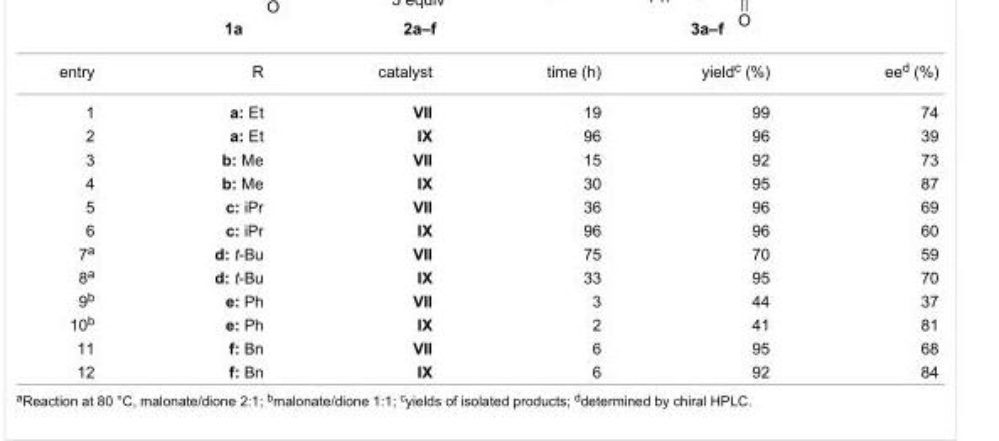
<table><tbody><tr><td>entry</td><td>R</td><td>catalyst</td><td>time (h)</td><td>yield<sup>c</sup> (%)</td><td>ee<sup>d</sup> (%)</td></tr><tr><td>1</td><td>a: Et</td><td>VII</td><td>19</td><td>99</td><td>74</td></tr><tr><td>2</td><td>a: Et</td><td>IX</td><td>96</td><td>96</td><td>39</td></tr><tr><td>3</td><td>b: Me</td><td>VII</td><td>15</td><td>92</td><td>73</td></tr><tr><td>4</td><td>b: Me</td><td>IX</td><td>30</td><td>95</td><td>87</td></tr><tr><td>5</td><td>c: iPr</td><td>VII</td><td>36</td><td>96</td><td>69</td></tr><tr><td>6</td><td>c: iPr</td><td>IX</td><td>96</td><td>96</td><td>60</td></tr><tr><td>7<sup>a</sup></td><td>d: t-Bu</td><td>VII</td><td>75</td><td>70</td><td>59</td></tr><tr><td>8<sup>a</sup></td><td>d: t-Bu</td><td>IX</td><td>33</td><td>95</td><td>70</td></tr><tr><td>9<sup>b</sup></td><td>e: Ph</td><td>VII</td><td>3</td><td>44</td><td>37</td></tr><tr><td>10<sup>b</sup></td><td>e: Ph</td><td>IX</td><td>2</td><td>41</td><td>81</td></tr><tr><td>11</td><td>f: Bn</td><td>VII</td><td>6</td><td>95</td><td>68</td></tr><tr><td>12</td><td>f: Bn</td><td>IX</td><td>6</td><td>92</td><td>84</td></tr></tbody></table>